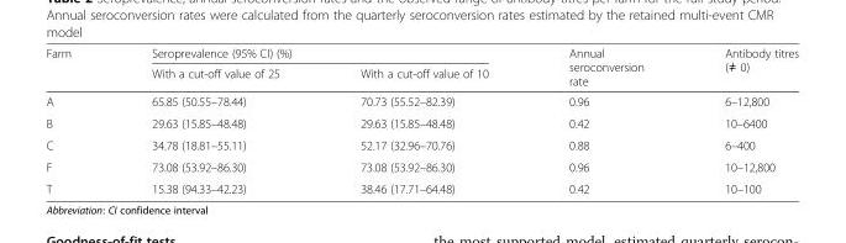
<table><thead><tr><td rowspan="2">Farm</td><td colspan="2">Seroprevalence (95% CI) (%)</td><td rowspan="2">Annual seroconversion rate</td><td rowspan="2">Antibody titres (≠ 0)</td></tr><tr><td>With a cut-off value of 25</td><td>With a cut-off value of 10</td></tr></thead><tbody><tr><td>A</td><td>65.85 (50.55–78.44)</td><td>70.73 (55.52–82.39)</td><td>0.96</td><td>6–12,800</td></tr><tr><td>B</td><td>29.63 (15.85–48.48)</td><td>29.63 (15.85–48.48)</td><td>0.42</td><td>10–6400</td></tr><tr><td>C</td><td>34.78 (18.81–55.11)</td><td>52.17 (32.96–70.76)</td><td>0.88</td><td>6–400</td></tr><tr><td>F</td><td>73.08 (53.92–86.30)</td><td>73.08 (53.92–86.30)</td><td>0.96</td><td>10–12,800</td></tr><tr><td>T</td><td>15.38 (94.33–42.23)</td><td>38.46 (17.71–64.48)</td><td>0.42</td><td>10–100</td></tr></tbody></table>